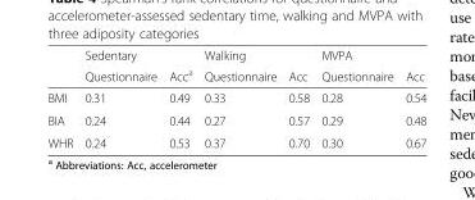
<table><thead><tr><td rowspan="2"></td><td rowspan="2">Sedentary Questionnaire</td><td rowspan="2">Acc<sup>a</sup></td><td rowspan="2">Walking Questionnaire</td><td rowspan="2">Acc</td><td rowspan="2">MVPA Questionnaire</td><td rowspan="2">Acc</td></tr><tr></tr></thead><tbody><tr><td>BMI</td><td>0.31</td><td>0.49</td><td>0.33</td><td>0.58</td><td>0.28</td><td>0.54</td></tr><tr><td>BIA</td><td>0.24</td><td>0.44</td><td>0.27</td><td>0.57</td><td>0.29</td><td>0.48</td></tr><tr><td>WHR</td><td>0.24</td><td>0.53</td><td>0.37</td><td>0.70</td><td>0.30</td><td>0.67</td></tr></tbody></table>